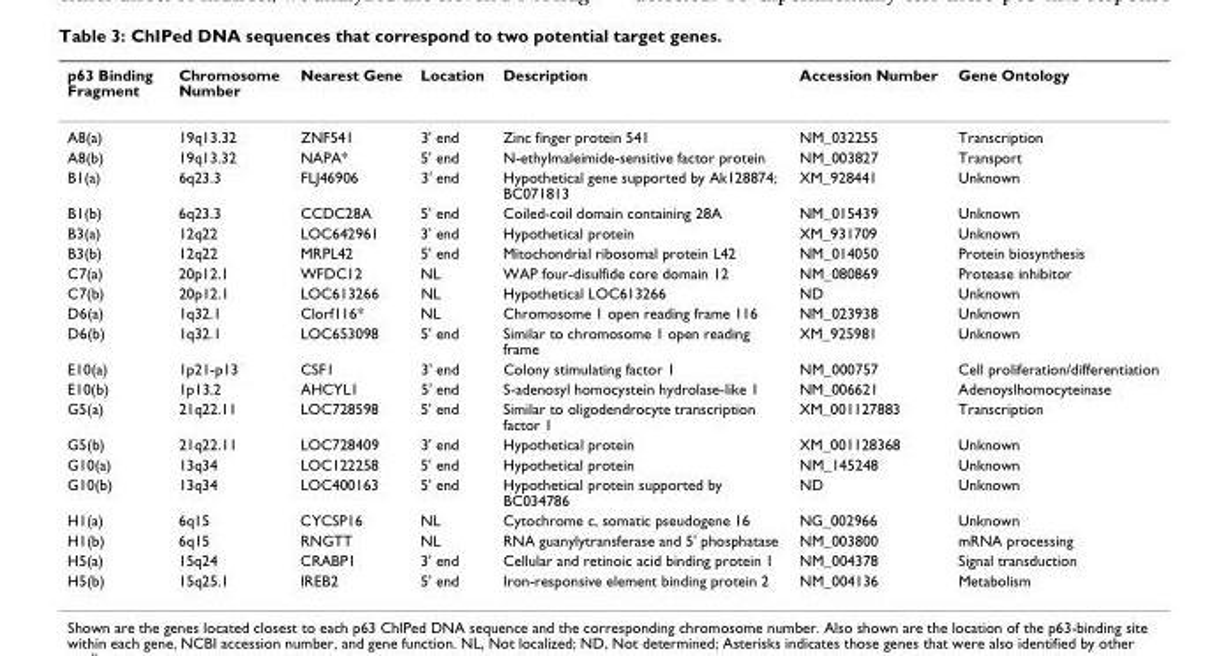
<table><thead><tr><td>p63 Binding Fragment</td><td>Chromosome Number</td><td>Nearest Gene</td><td>Location</td><td>Description</td><td>Accession Number</td><td>Gene Ontology</td></tr></thead><tbody><tr><td>A8(a)</td><td>19q13.32</td><td>ZNF541</td><td>3&#x27; end</td><td>Zinc finger protein 541</td><td>NM_032255</td><td>Transcription</td></tr><tr><td>A8(b)</td><td>19q13.32</td><td>NAPA*</td><td>5&#x27; end</td><td>N-ethylmaleimide-sensitive factor protein</td><td>NM_003827</td><td>Transport</td></tr><tr><td>B1(a)</td><td>6q23.3</td><td>FLJ46906</td><td>3&#x27; end</td><td>Hypothetical gene supported by Ak128874; BC071813</td><td>XM_928441</td><td>Unknown</td></tr><tr><td>B1(b)</td><td>6q23.3</td><td>CCDC28A</td><td>5&#x27; end</td><td>Coiled-coil domain containing 28A</td><td>NM_015439</td><td>Unknown</td></tr><tr><td>B3(a)</td><td>12q22</td><td>LOC642961</td><td>3&#x27; end</td><td>Hypothetical protein</td><td>XM_931709</td><td>Unknown</td></tr><tr><td>B3(b)</td><td>12q22</td><td>MRPL42</td><td>5&#x27; end</td><td>Mitochondrial ribosomal protein L42</td><td>NM_014050</td><td>Protein biosynthesis</td></tr><tr><td>C7(a)</td><td>20p12.1</td><td>WFDC12</td><td>NL</td><td>WAP four-disulfide core domain 12</td><td>NM_080869</td><td>Protease inhibitor</td></tr><tr><td>C7(b)</td><td>20p12.1</td><td>LOC613266</td><td>NL</td><td>Hypothetical LOC613266</td><td>ND</td><td>Unknown</td></tr><tr><td>D6(a)</td><td>1q32.1</td><td>Clorf116*</td><td>NL</td><td>Chromosome 1 open reading frame 116</td><td>NM_023938</td><td>Unknown</td></tr><tr><td>D6(b)</td><td>1q32.1</td><td>LOC653098</td><td>5&#x27; end</td><td>Similar to chromosome 1 open reading frame</td><td>XM_925981</td><td>Unknown</td></tr><tr><td>E10(a)</td><td>1p21-p13</td><td>CSF1</td><td>3&#x27; end</td><td>Colony stimulating factor 1</td><td>NM_000757</td><td>Cell proliferation/differentiation</td></tr><tr><td>E10(b)</td><td>1p13.2</td><td>AHCYL1</td><td>5&#x27; end</td><td>S-adenosyl homocystein hydrolase-like 1</td><td>NM_006621</td><td>Adenoyslhomocyteinase</td></tr><tr><td>G5(a)</td><td>21q22.11</td><td>LOC728598</td><td>5&#x27; end</td><td>Similar to oligodendrocyte transcription factor 1</td><td>XM_001127883</td><td>Transcription</td></tr><tr><td>G5(b)</td><td>21q22.11</td><td>LOC728409</td><td>3&#x27; end</td><td>Hypothetical protein</td><td>XM_001128368</td><td>Unknown</td></tr><tr><td>G10(a)</td><td>13q34</td><td>LOC122258</td><td>5&#x27; end</td><td>Hypothetical protein</td><td>NM_145248</td><td>Unknown</td></tr><tr><td>G10(b)</td><td>13q34</td><td>LOC400163</td><td>5&#x27; end</td><td>Hypothetical protein supported by BC034786</td><td>ND</td><td>Unknown</td></tr><tr><td>H1(a)</td><td>6q15</td><td>CYCSP16</td><td>NL</td><td>Cytochrome c, somatic pseudogene 16</td><td>NG_002966</td><td>Unknown</td></tr><tr><td>H1(b)</td><td>6q15</td><td>RNGTT</td><td>NL</td><td>RNA guanylytransferase and 5&#x27; phosphatase</td><td>NM_003800</td><td>mRNA processing</td></tr><tr><td>H5(a)</td><td>15q24</td><td>CRABP1</td><td>3&#x27; end</td><td>Cellular and retinoic acid binding protein 1</td><td>NM_004378</td><td>Signal transduction</td></tr><tr><td>H5(b)</td><td>15q25.1</td><td>IREB2</td><td>5&#x27; end</td><td>Iron-responsive element binding protein 2</td><td>NM_004136</td><td>Metabolism</td></tr></tbody></table>